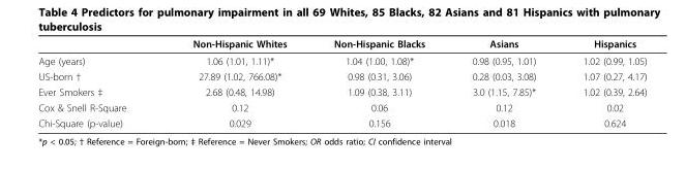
<table><thead><tr><td></td><td>Non-Hispanic Whites</td><td>Non-Hispanic Blacks</td><td>Asians</td><td>Hispanics</td></tr></thead><tbody><tr><td>Age (years)</td><td>1.06 (1.01, 1.11)*</td><td>1.04 (1.00, 1.08)*</td><td>0.98 (0.95, 1.01)</td><td>1.02 (0.99, 1.05)</td></tr><tr><td>US-born †</td><td>27.89 (1.02, 766.08)*</td><td>0.98 (0.31, 3.06)</td><td>0.28 (0.03, 3.08)</td><td>1.07 (0.27, 4.17)</td></tr><tr><td>Ever Smokers ‡</td><td>2.68 (0.48, 14.98)</td><td>1.09 (0.38, 3.11)</td><td>3.0 (1.15, 7.85)*</td><td>1.02 (0.39, 2.64)</td></tr><tr><td>Cox &amp; Snell R-Square</td><td>0.12</td><td>0.06</td><td>0.12</td><td>0.02</td></tr><tr><td>Chi-Square (p-value)</td><td>0.029</td><td>0.156</td><td>0.018</td><td>0.624</td></tr></tbody></table>